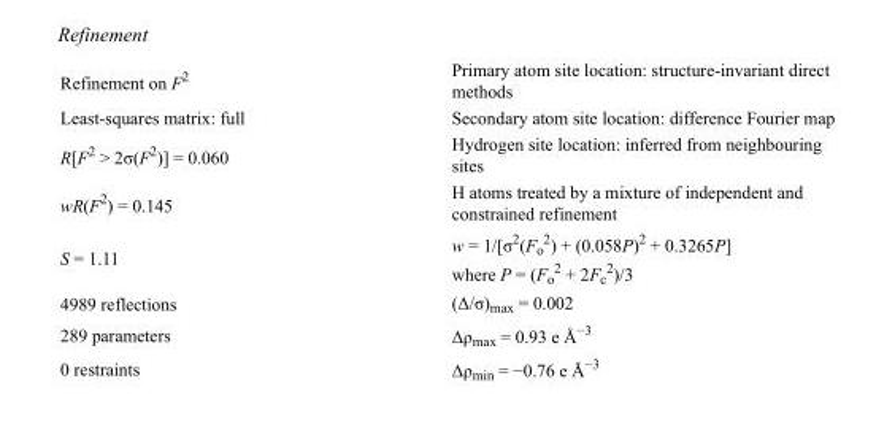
<table><tbody><tr><td>Refinement on F<sup>2</sup></td><td>Primary atom site location: structure-invariant direct methods</td></tr><tr><td>Least-squares matrix: full</td><td>Secondary atom site location: difference Fourier map</td></tr><tr><td>R[F<sup>2</sup> &gt; 2σ(F<sup>2</sup>)] = 0.060</td><td>Hydrogen site location: inferred from neighbouring sites</td></tr><tr><td>wR(F<sup>2</sup>) = 0.145</td><td>H atoms treated by a mixture of independent and constrained refinement</td></tr><tr><td>S = 1.11</td><td>w = 1/[σ<sup>2</sup>(F<sub>o</sub> <sup>2</sup>) + (0.058P)<sup>2</sup> + 0.3265P] where P = (F<sub>o</sub> <sup>2</sup> + 2F<sub>c</sub> <sup>2</sup>)/3</td></tr><tr><td>4989 reflections</td><td>(Δ/σ)<sub>max</sub> = 0.002</td></tr><tr><td>289 parameters</td><td>Δρ<sub>max</sub> = 0.93 e Å<sup>−3</sup></td></tr><tr><td>0 restraints</td><td>Δρ<sub>min</sub> = −0.76 e Å<sup>−3</sup></td></tr></tbody></table>